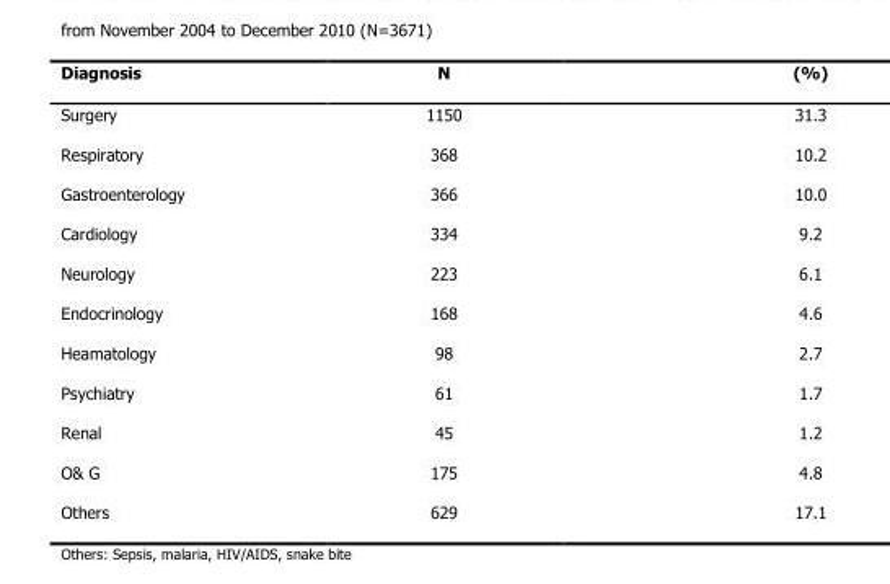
<table><thead><tr><td>Diagnosis</td><td>N</td><td>(%)</td></tr></thead><tbody><tr><td>Surgery</td><td>1150</td><td>31.3</td></tr><tr><td>Respiratory</td><td>368</td><td>10.2</td></tr><tr><td>Gastroenterology</td><td>366</td><td>10.0</td></tr><tr><td>Cardiology</td><td>334</td><td>9.2</td></tr><tr><td>Neurology</td><td>223</td><td>6.1</td></tr><tr><td>Endocrinology</td><td>168</td><td>4.6</td></tr><tr><td>Heamatology</td><td>98</td><td>2.7</td></tr><tr><td>Psychiatry</td><td>61</td><td>1.7</td></tr><tr><td>Renal</td><td>45</td><td>1.2</td></tr><tr><td>O&amp; G</td><td>175</td><td>4.8</td></tr><tr><td>Others</td><td>629</td><td>17.1</td></tr></tbody></table>